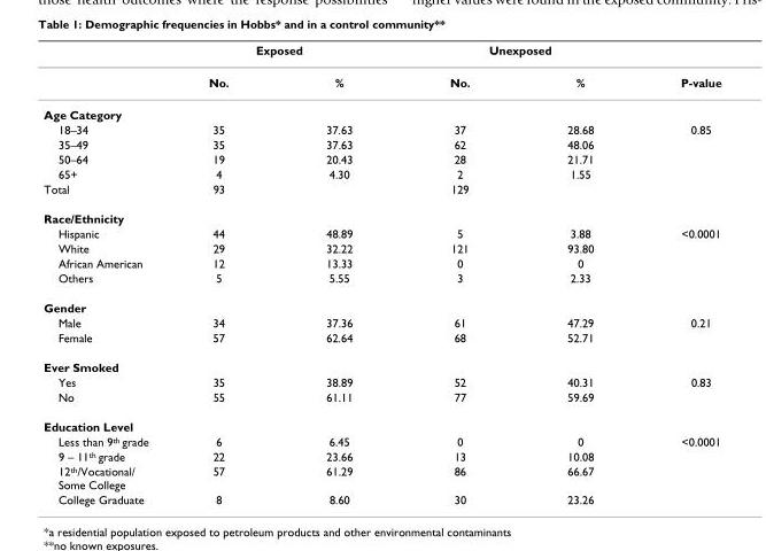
<table><thead><tr><td rowspan="2"></td><td colspan="2">Exposed</td><td colspan="2">Unexposed</td><td rowspan="2">P-value</td></tr><tr><td>No.</td><td>%</td><td>No.</td><td>%</td></tr></thead><tbody><tr><td colspan="6">Age Category</td></tr><tr><td>18–34</td><td>35</td><td>37.63</td><td>37</td><td>28.68</td><td>0.85</td></tr><tr><td>35–49</td><td>35</td><td>37.63</td><td>62</td><td>48.06</td><td></td></tr><tr><td>50–64</td><td>19</td><td>20.43</td><td>28</td><td>21.71</td><td></td></tr><tr><td>65+</td><td>4</td><td>4.30</td><td>2</td><td>1.55</td><td></td></tr><tr><td>Total</td><td>93</td><td></td><td>129</td><td></td><td></td></tr><tr><td colspan="6">Race/Ethnicity</td></tr><tr><td>Hispanic</td><td>44</td><td>48.89</td><td>5</td><td>3.88</td><td>&lt;0.0001</td></tr><tr><td>White</td><td>29</td><td>32.22</td><td>121</td><td>93.80</td><td></td></tr><tr><td>African American</td><td>12</td><td>13.33</td><td>0</td><td>0</td><td></td></tr><tr><td>Others</td><td>5</td><td>5.55</td><td>3</td><td>2.33</td><td></td></tr><tr><td colspan="6">Gender</td></tr><tr><td>Male</td><td>34</td><td>37.36</td><td>61</td><td>47.29</td><td>0.21</td></tr><tr><td>Female</td><td>57</td><td>62.64</td><td>68</td><td>52.71</td><td></td></tr><tr><td colspan="6">Ever Smoked</td></tr><tr><td>Yes</td><td>35</td><td>38.89</td><td>52</td><td>40.31</td><td>0.83</td></tr><tr><td>No</td><td>55</td><td>61.11</td><td>77</td><td>59.69</td><td></td></tr><tr><td colspan="6">Education Level</td></tr><tr><td>Less than 9<sup>th</sup> grade</td><td>6</td><td>6.45</td><td>0</td><td>0</td><td>&lt;0.0001</td></tr><tr><td>9 – 11<sup>th</sup> grade</td><td>22</td><td>23.66</td><td>13</td><td>10.08</td><td></td></tr><tr><td>12<sup>th</sup>/Vocational/ Some College</td><td>57</td><td>61.29</td><td>86</td><td>66.67</td><td></td></tr><tr><td>College Graduate</td><td>8</td><td>8.60</td><td>30</td><td>23.26</td><td></td></tr></tbody></table>